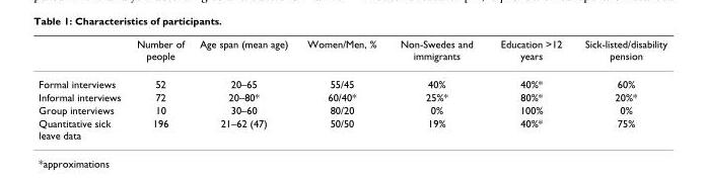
<table><thead><tr><td></td><td>Number of people</td><td>Age span (mean age)</td><td>Women/Men, %</td><td>Non-Swedes and immigrants</td><td>Education &gt;12 years</td><td>Sick-listed/disability pension</td></tr></thead><tbody><tr><td>Formal interviews</td><td>52</td><td>20–65</td><td>55/45</td><td>40%</td><td>40%*</td><td>60%</td></tr><tr><td>Informal interviews</td><td>72</td><td>20–80*</td><td>60/40*</td><td>25%*</td><td>80%*</td><td>20%*</td></tr><tr><td>Group interviews</td><td>10</td><td>30–60</td><td>80/20</td><td>0%</td><td>100%</td><td>0%</td></tr><tr><td>Quantitative sick leave data</td><td>196</td><td>21–62 (47)</td><td>50/50</td><td>19%</td><td>40%*</td><td>75%</td></tr></tbody></table>